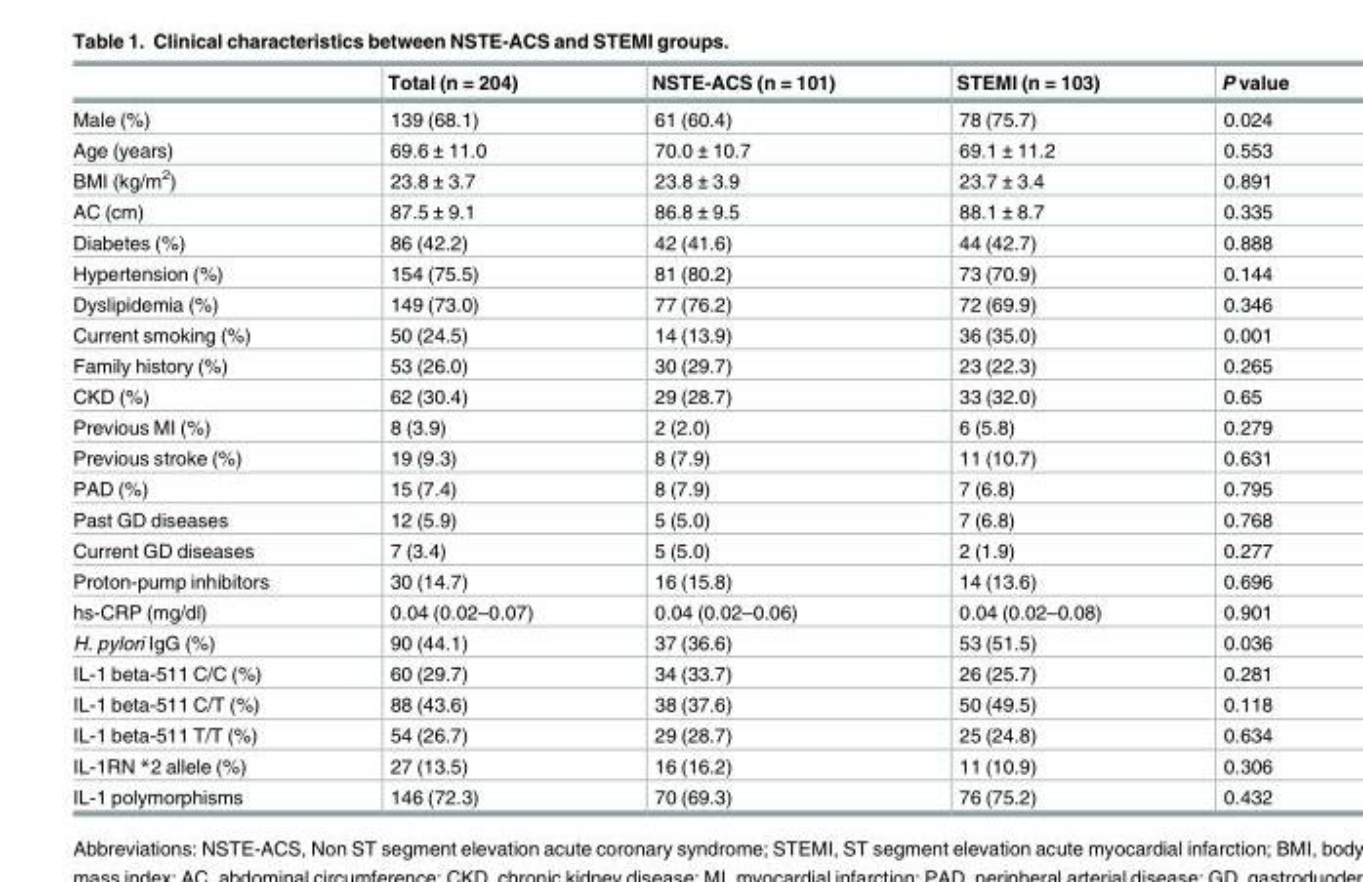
<table><thead><tr><td></td><td>Total (n = 204)</td><td>NSTE-ACS (n = 101)</td><td>STEMI (n = 103)</td><td>P value</td></tr></thead><tbody><tr><td>Male (%)</td><td>139 (68.1)</td><td>61 (60.4)</td><td>78 (75.7)</td><td>0.024</td></tr><tr><td>Age (years)</td><td>69.6 ± 11.0</td><td>70.0 ± 10.7</td><td>69.1 ± 11.2</td><td>0.553</td></tr><tr><td>BMI (kg/m<sup>2</sup>)</td><td>23.8 ± 3.7</td><td>23.8 ± 3.9</td><td>23.7 ± 3.4</td><td>0.891</td></tr><tr><td>AC (cm)</td><td>87.5 ± 9.1</td><td>86.8 ± 9.5</td><td>88.1 ± 8.7</td><td>0.335</td></tr><tr><td>Diabetes (%)</td><td>86 (42.2)</td><td>42 (41.6)</td><td>44 (42.7)</td><td>0.888</td></tr><tr><td>Hypertension (%)</td><td>154 (75.5)</td><td>81 (80.2)</td><td>73 (70.9)</td><td>0.144</td></tr><tr><td>Dyslipidemia (%)</td><td>149 (73.0)</td><td>77 (76.2)</td><td>72 (69.9)</td><td>0.346</td></tr><tr><td>Current smoking (%)</td><td>50 (24.5)</td><td>14 (13.9)</td><td>36 (35.0)</td><td>0.001</td></tr><tr><td>Family history (%)</td><td>53 (26.0)</td><td>30 (29.7)</td><td>23 (22.3)</td><td>0.265</td></tr><tr><td>CKD (%)</td><td>62 (30.4)</td><td>29 (28.7)</td><td>33 (32.0)</td><td>0.65</td></tr><tr><td>Previous MI (%)</td><td>8 (3.9)</td><td>2 (2.0)</td><td>6 (5.8)</td><td>0.279</td></tr><tr><td>Previous stroke (%)</td><td>19 (9.3)</td><td>8 (7.9)</td><td>11 (10.7)</td><td>0.631</td></tr><tr><td>PAD (%)</td><td>15 (7.4)</td><td>8 (7.9)</td><td>7 (6.8)</td><td>0.795</td></tr><tr><td>Past GD diseases</td><td>12 (5.9)</td><td>5 (5.0)</td><td>7 (6.8)</td><td>0.768</td></tr><tr><td>Current GD diseases</td><td>7 (3.4)</td><td>5 (5.0)</td><td>2 (1.9)</td><td>0.277</td></tr><tr><td>Proton-pump inhibitors</td><td>30 (14.7)</td><td>16 (15.8)</td><td>14 (13.6)</td><td>0.696</td></tr><tr><td>hs-CRP (mg/dl)</td><td>0.04 (0.02–0.07)</td><td>0.04 (0.02–0.06)</td><td>0.04 (0.02–0.08)</td><td>0.901</td></tr><tr><td>H. pylori IgG (%)</td><td>90 (44.1)</td><td>37 (36.6)</td><td>53 (51.5)</td><td>0.036</td></tr><tr><td>IL-1 beta-511 C/C (%)</td><td>60 (29.7)</td><td>34 (33.7)</td><td>26 (25.7)</td><td>0.281</td></tr><tr><td>IL-1 beta-511 C/T (%)</td><td>88 (43.6)</td><td>38 (37.6)</td><td>50 (49.5)</td><td>0.118</td></tr><tr><td>IL-1 beta-511 T/T (%)</td><td>54 (26.7)</td><td>29 (28.7)</td><td>25 (24.8)</td><td>0.634</td></tr><tr><td>IL-1RN *2 allele (%)</td><td>27 (13.5)</td><td>16 (16.2)</td><td>11 (10.9)</td><td>0.306</td></tr><tr><td>IL-1 polymorphisms</td><td>146 (72.3)</td><td>70 (69.3)</td><td>76 (75.2)</td><td>0.432</td></tr></tbody></table>